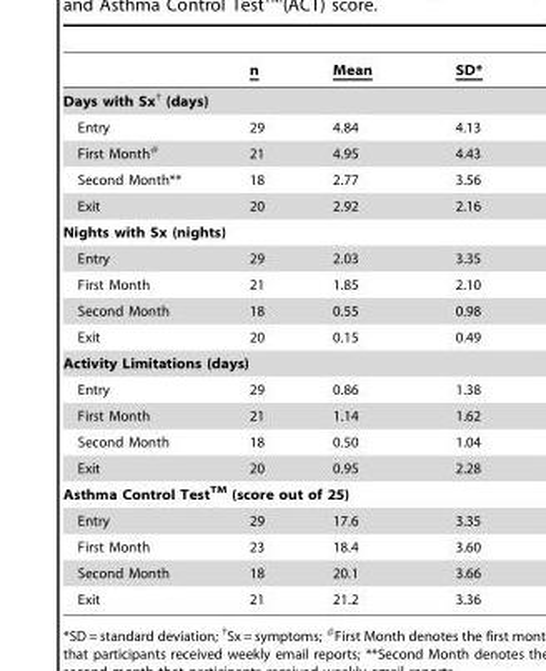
<table><thead><tr><td></td><td>n</td><td>Mean</td><td>SD*</td></tr></thead><tbody><tr><td colspan="4">Days with Sx<sup>†</sup> (days)</td></tr><tr><td>Entry</td><td>29</td><td>4.84</td><td>4.13</td></tr><tr><td>First Month<sup>#</sup></td><td>21</td><td>4.95</td><td>4.43</td></tr><tr><td>Second Month**</td><td>18</td><td>2.77</td><td>3.56</td></tr><tr><td>Exit</td><td>20</td><td>2.92</td><td>2.16</td></tr><tr><td colspan="4">Nights with Sx (nights)</td></tr><tr><td>Entry</td><td>29</td><td>2.03</td><td>3.35</td></tr><tr><td>First Month</td><td>21</td><td>1.85</td><td>2.10</td></tr><tr><td>Second Month</td><td>18</td><td>0.55</td><td>0.98</td></tr><tr><td>Exit</td><td>20</td><td>0.15</td><td>0.49</td></tr><tr><td colspan="4">Activity Limitations (days)</td></tr><tr><td>Entry</td><td>29</td><td>0.86</td><td>1.38</td></tr><tr><td>First Month</td><td>21</td><td>1.14</td><td>1.62</td></tr><tr><td>Second Month</td><td>18</td><td>0.50</td><td>1.04</td></tr><tr><td>Exit</td><td>20</td><td>0.95</td><td>2.28</td></tr><tr><td colspan="4">Asthma Control Test<sup>TM</sup> (score out of 25)</td></tr><tr><td>Entry</td><td>29</td><td>17.6</td><td>3.35</td></tr><tr><td>First Month</td><td>23</td><td>18.4</td><td>3.60</td></tr><tr><td>Second Month</td><td>18</td><td>20.1</td><td>3.66</td></tr><tr><td>Exit</td><td>21</td><td>21.2</td><td>3.36</td></tr></tbody></table>